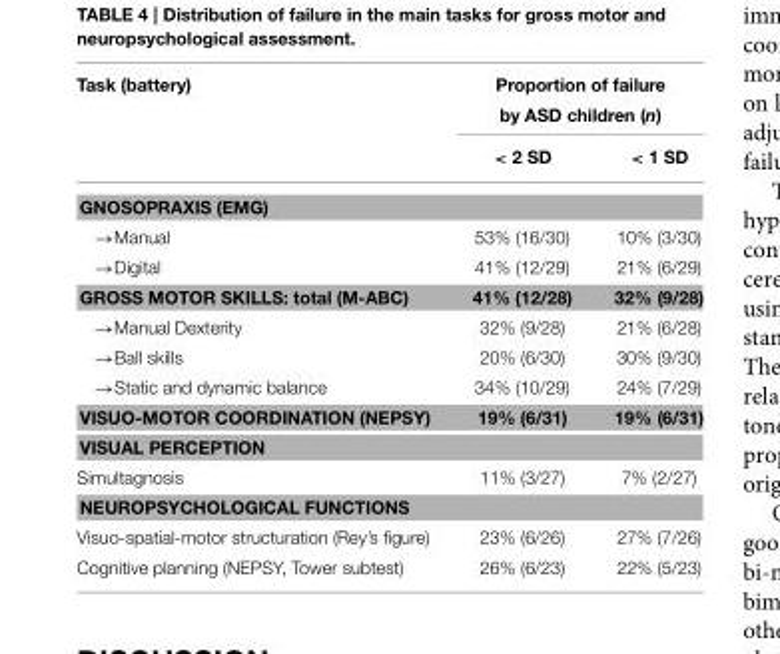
<table><thead><tr><td rowspan="2">Task (battery)</td><td colspan="2">Proportion of failure by ASD children (n)</td></tr><tr><td>&lt; 2 SD</td><td>&lt; 1 SD</td></tr></thead><tbody><tr><td colspan="3">GNOSOPRAXIS (EMG)</td></tr><tr><td>→Manual</td><td>53% (16/30)</td><td>10% (3/30)</td></tr><tr><td>→Digital</td><td>41% (12/29)</td><td>21% (6/29)</td></tr><tr><td>GROSS MOTOR SKILLS: total (M-ABC)</td><td>41% (12/28)</td><td>32% (9/28)</td></tr><tr><td>→Manual Dexterity</td><td>32% (9/28)</td><td>21% (6/28)</td></tr><tr><td>→Ball skills</td><td>20% (6/30)</td><td>30% (9/30)</td></tr><tr><td>→Static and dynamic balance</td><td>34% (10/29)</td><td>24% (7/29)</td></tr><tr><td>VISUO-MOTOR COORDINATION (NEPSY)</td><td>19% (6/31)</td><td>19% (6/31)</td></tr><tr><td colspan="3">VISUAL PERCEPTION</td></tr><tr><td>Simultagnosis</td><td>11% (3/27)</td><td>7% (2/27)</td></tr><tr><td colspan="3">NEUROPSYCHOLOGICAL FUNCTIONS</td></tr><tr><td>Visuo-spatial-motor structuration (Rey’s figure)</td><td>23% (6/26)</td><td>27% (7/26)</td></tr><tr><td>Cognitive planning (NEPSY, Tower subtest)</td><td>26% (6/23)</td><td>22% (5/23)</td></tr></tbody></table>